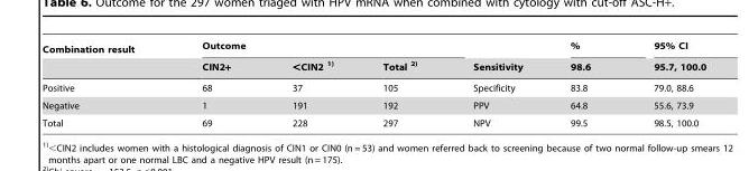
<table><thead><tr><td rowspan="2">Combination result</td><td colspan="3">Outcome</td><td rowspan="2">Sensitivity</td><td rowspan="2">% 98.6</td><td rowspan="2">95% CI 95.7, 100.0</td></tr><tr><td>CIN2+</td><td>&lt;CIN2 1)</td><td>Total 2)</td></tr></thead><tbody><tr><td>Positive</td><td>68</td><td>37</td><td>105</td><td>Specificity</td><td>83.8</td><td>79.0, 88.6</td></tr><tr><td>Negative</td><td>1</td><td>191</td><td>192</td><td>PPV</td><td>64.8</td><td>55.6, 73.9</td></tr><tr><td>Total</td><td>69</td><td>228</td><td>297</td><td>NPV</td><td>99.5</td><td>98.5, 100.0</td></tr></tbody></table>